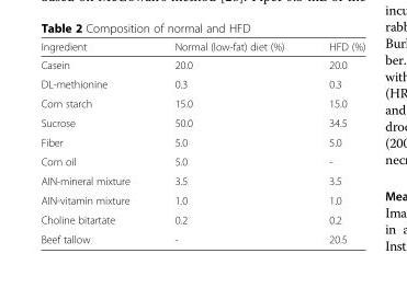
<table><thead><tr><td>Ingredient</td><td>Normal (low-fat) diet (%)</td><td>HFD (%)</td></tr></thead><tbody><tr><td>Casein</td><td>20.0</td><td>20.0</td></tr><tr><td>DL-methionine</td><td>0.3</td><td>0.3</td></tr><tr><td>Corn starch</td><td>15.0</td><td>15.0</td></tr><tr><td>Sucrose</td><td>50.0</td><td>34.5</td></tr><tr><td>Fiber</td><td>5.0</td><td>5.0</td></tr><tr><td>Corn oil</td><td>5.0</td><td>-</td></tr><tr><td>AIN-mineral mixture</td><td>3.5</td><td>3.5</td></tr><tr><td>AIN-vitamin mixture</td><td>1.0</td><td>1.0</td></tr><tr><td>Choline bitartate</td><td>0.2</td><td>0.2</td></tr><tr><td>Beef tallow</td><td>-</td><td>20.5</td></tr></tbody></table>